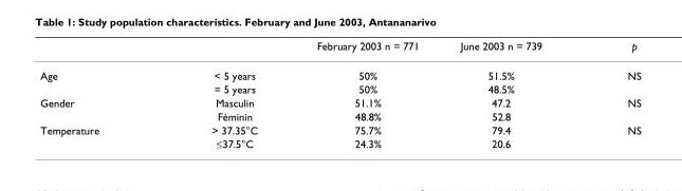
<table><thead><tr><td></td><td></td><td>February 2003 n = 771</td><td>June 2003 n = 739</td><td>p</td></tr></thead><tbody><tr><td rowspan="2">Age</td><td>&lt; 5 years</td><td>50%</td><td>51.5%</td><td>NS</td></tr><tr><td>= 5 years</td><td>50%</td><td>48.5%</td><td></td></tr><tr><td rowspan="2">Gender</td><td>Masculin</td><td>51.1%</td><td>47.2</td><td>NS</td></tr><tr><td>Féminin</td><td>48.8%</td><td>52.8</td><td></td></tr><tr><td rowspan="2">Temperature</td><td>&gt; 37.35°C</td><td>75.7%</td><td>79.4</td><td>NS</td></tr><tr><td>≤37.5°C</td><td>24.3%</td><td>20.6</td><td></td></tr></tbody></table>